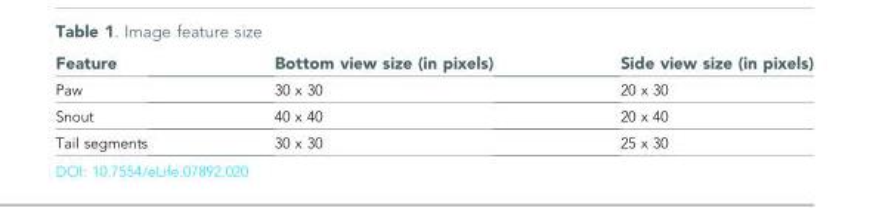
<table><thead><tr><td>Feature</td><td>Bottom view size (in pixels)</td><td>Side view size (in pixels)</td></tr></thead><tbody><tr><td>Paw</td><td>30 x 30</td><td>20 x 30</td></tr><tr><td>Snout</td><td>40 x 40</td><td>20 x 40</td></tr><tr><td>Tail segments</td><td>30 x 30</td><td>25 x 30</td></tr></tbody></table>